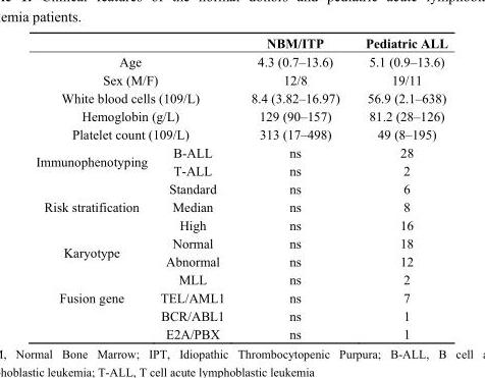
<table><thead><tr><td></td><td></td><td>NBM/ITP</td><td>Pediatric ALL</td></tr></thead><tbody><tr><td colspan="2">Age</td><td>4.3 (0.7–13.6)</td><td>5.1 (0.9–13.6)</td></tr><tr><td colspan="2">Sex (M/F)</td><td>12/8</td><td>19/11</td></tr><tr><td colspan="2">White blood cells (109/L)</td><td>8.4 (3.82–16.97)</td><td>56.9 (2.1–638)</td></tr><tr><td colspan="2">Hemoglobin (g/L)</td><td>129 (90–157)</td><td>81.2 (28–126)</td></tr><tr><td colspan="2">Platelet count (109/L)</td><td>313 (17–498)</td><td>49 (8–195)</td></tr><tr><td rowspan="2">Immunophenotyping</td><td>B-ALL</td><td>ns</td><td>28</td></tr><tr><td>T-ALL</td><td>ns</td><td>2</td></tr><tr><td rowspan="3">Risk stratification</td><td>Standard</td><td>ns</td><td>6</td></tr><tr><td>Median</td><td>ns</td><td>8</td></tr><tr><td>High</td><td>ns</td><td>16</td></tr><tr><td rowspan="2">Karyotype</td><td>Normal</td><td>ns</td><td>18</td></tr><tr><td>Abnormal</td><td>ns</td><td>12</td></tr><tr><td rowspan="4">Fusion gene</td><td>MLL</td><td>ns</td><td>2</td></tr><tr><td>TEL/AML1</td><td>ns</td><td>7</td></tr><tr><td>BCR/ABL1</td><td>ns</td><td>1</td></tr><tr><td>E2A/PBX</td><td>ns</td><td>1</td></tr></tbody></table>